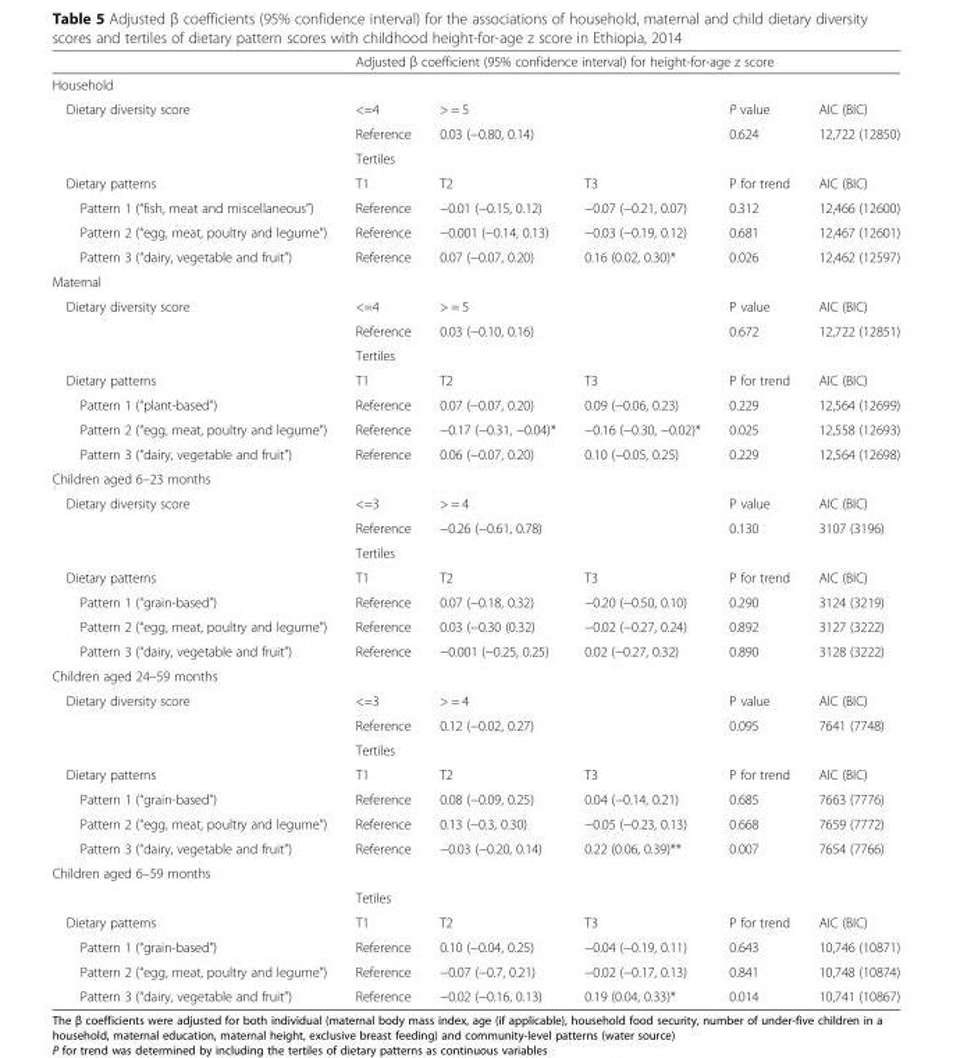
<table><thead><tr><td></td><td colspan="5">Adjusted β coefficient (95% confidence interval) for height-for-age z score</td></tr><tr><td colspan="6">Household</td></tr><tr><td>Dietary diversity score</td><td>&lt;=4</td><td>&gt; = 5</td><td></td><td>P value</td><td>AIC (BIC)</td></tr></thead><tbody><tr><td></td><td>Reference</td><td>0.03 (−0.80, 0.14)</td><td></td><td>0.624</td><td>12,722 (12850)</td></tr><tr><td></td><td colspan="5">Tertiles</td></tr><tr><td>Dietary patterns</td><td>T1</td><td>T2</td><td>T3</td><td>P for trend</td><td>AIC (BIC)</td></tr><tr><td>Pattern 1 (“fish, meat and miscellaneous”)</td><td>Reference</td><td>−0.01 (−0.15, 0.12)</td><td>−0.07 (−0.21, 0.07)</td><td>0.312</td><td>12,466 (12600)</td></tr><tr><td>Pattern 2 (“egg, meat, poultry and legume”)</td><td>Reference</td><td>−0.001 (−0.14, 0.13)</td><td>−0.03 (−0.19, 0.12)</td><td>0.681</td><td>12,467 (12601)</td></tr><tr><td>Pattern 3 (“dairy, vegetable and fruit”)</td><td>Reference</td><td>0.07 (−0.07, 0.20)</td><td>0.16 (0.02, 0.30)*</td><td>0.026</td><td>12,462 (12597)</td></tr><tr><td colspan="6">Maternal</td></tr><tr><td rowspan="3">Dietary diversity score</td><td>&lt;=4</td><td>&gt; = 5</td><td></td><td>P value</td><td>AIC (BIC)</td></tr><tr><td>Reference</td><td>0.03 (−0.10, 0.16)</td><td></td><td>0.672</td><td>12,722 (12851)</td></tr><tr><td colspan="5">Tertiles</td></tr><tr><td>Dietary patterns</td><td>T1</td><td>T2</td><td>T3</td><td>P for trend</td><td>AIC (BIC)</td></tr><tr><td>Pattern 1 (“plant-based”)</td><td>Reference</td><td>0.07 (−0.07, 0.20)</td><td>0.09 (−0.06, 0.23)</td><td>0.229</td><td>12,564 (12699)</td></tr><tr><td>Pattern 2 (“egg, meat, poultry and legume”)</td><td>Reference</td><td>−0.17 (−0.31, −0.04)*</td><td>−0.16 (−0.30, −0.02)*</td><td>0.025</td><td>12,558 (12693)</td></tr><tr><td>Pattern 3 (“dairy, vegetable and fruit”)</td><td>Reference</td><td>0.06 (−0.07, 0.20)</td><td>0.10 (−0.05, 0.25)</td><td>0.229</td><td>12,564 (12698)</td></tr><tr><td colspan="6">Children aged 6–23 months</td></tr><tr><td rowspan="3">Dietary diversity score</td><td>&lt;=3</td><td>&gt; = 4</td><td></td><td>P value</td><td>AIC (BIC)</td></tr><tr><td>Reference</td><td>−0.26 (−0.61, 0.78)</td><td></td><td>0.130</td><td>3107 (3196)</td></tr><tr><td colspan="5">Tertiles</td></tr><tr><td>Dietary patterns</td><td>T1</td><td>T2</td><td>T3</td><td>P for trend</td><td>AIC (BIC)</td></tr><tr><td>Pattern 1 (“grain-based”)</td><td>Reference</td><td>0.07 (−0.18, 0.32)</td><td>−0.20 (−0.50, 0.10)</td><td>0.290</td><td>3124 (3219)</td></tr><tr><td>Pattern 2 (“egg, meat, poultry and legume”)</td><td>Reference</td><td>0.03 (−0.30 (0.32)</td><td>−0.02 (−0.27, 0.24)</td><td>0.892</td><td>3127 (3222)</td></tr><tr><td>Pattern 3 (“dairy, vegetable and fruit”)</td><td>Reference</td><td>−0.001 (−0.25, 0.25)</td><td>0.02 (−0.27, 0.32)</td><td>0.890</td><td>3128 (3222)</td></tr><tr><td colspan="6">Children aged 24–59 months</td></tr><tr><td rowspan="3">Dietary diversity score</td><td>&lt;=3</td><td>&gt; = 4</td><td></td><td>P value</td><td>AIC (BIC)</td></tr><tr><td>Reference</td><td>0.12 (−0.02, 0.27)</td><td></td><td>0.095</td><td>7641 (7748)</td></tr><tr><td colspan="5">Tertiles</td></tr><tr><td>Dietary patterns</td><td>T1</td><td>T2</td><td>T3</td><td>P for trend</td><td>AIC (BIC)</td></tr><tr><td>Pattern 1 (“grain-based”)</td><td>Reference</td><td>0.08 (−0.09, 0.25)</td><td>0.04 (−0.14, 0.21)</td><td>0.685</td><td>7663 (7776)</td></tr><tr><td>Pattern 2 (“egg, meat, poultry and legume”)</td><td>Reference</td><td>0.13 (−0.3, 0.30)</td><td>−0.05 (−0.23, 0.13)</td><td>0.668</td><td>7659 (7772)</td></tr><tr><td>Pattern 3 (“dairy, vegetable and fruit”)</td><td>Reference</td><td>−0.03 (−0.20, 0.14)</td><td>0.22 (0.06, 0.39)**</td><td>0.007</td><td>7654 (7766)</td></tr><tr><td colspan="6">Children aged 6–59 months</td></tr><tr><td></td><td colspan="5">Tetiles</td></tr><tr><td>Dietary patterns</td><td>T1</td><td>T2</td><td>T3</td><td>P for trend</td><td>AIC (BIC)</td></tr><tr><td>Pattern 1 (“grain-based”)</td><td>Reference</td><td>0.10 (−0.04, 0.25)</td><td>−0.04 (−0.19, 0.11)</td><td>0.643</td><td>10,746 (10871)</td></tr><tr><td>Pattern 2 (“egg, meat, poultry and legume”)</td><td>Reference</td><td>−0.07 (−0.7, 0.21)</td><td>−0.02 (−0.17, 0.13)</td><td>0.841</td><td>10,748 (10874)</td></tr><tr><td>Pattern 3 (“dairy, vegetable and fruit”)</td><td>Reference</td><td>−0.02 (−0.16, 0.13)</td><td>0.19 (0.04, 0.33)*</td><td>0.014</td><td>10,741 (10867)</td></tr></tbody></table>